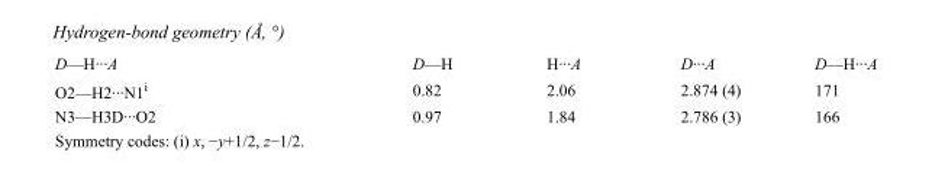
<table><tbody><tr><td>D—H···A</td><td>D—H</td><td>H···A</td><td>D···A</td><td>D—H···A</td></tr><tr><td>O2—H2···N1<sup>i</sup></td><td>0.82</td><td>2.06</td><td>2.874 (4)</td><td>171</td></tr><tr><td>N3—H3D···O2</td><td>0.97</td><td>1.84</td><td>2.786 (3)</td><td>166</td></tr></tbody></table>